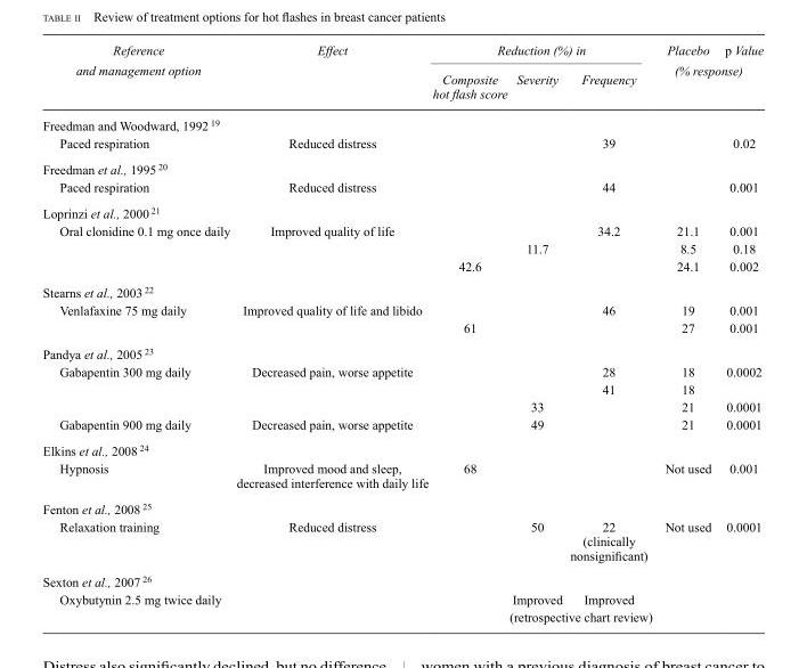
<table><thead><tr><td rowspan="2">Reference and management option</td><td rowspan="2">Effect</td><td colspan="3">Reduction (%) in</td><td>Placebo</td><td>p Value</td></tr><tr><td>Composite hot flash score</td><td>Severity</td><td>Frequency</td><td colspan="2">(% response)</td></tr></thead><tbody><tr><td colspan="7">Freedman and Woodward, 1992 <sup>19</sup></td></tr><tr><td>Paced respiration</td><td>Reduced distress</td><td></td><td></td><td>39</td><td></td><td>0.02</td></tr><tr><td colspan="7">Freedman et al., 1995 <sup>20</sup></td></tr><tr><td>Paced respiration</td><td>Reduced distress</td><td></td><td></td><td>44</td><td></td><td>0.001</td></tr><tr><td colspan="7">Loprinzi et al., 2000 <sup>21</sup></td></tr><tr><td rowspan="3">Oral clonidine 0.1 mg once daily</td><td>Improved quality of life</td><td></td><td></td><td>34.2</td><td>21.1</td><td>0.001</td></tr><tr><td></td><td></td><td>11.7</td><td></td><td>8.5</td><td>0.18</td></tr><tr><td></td><td>42.6</td><td></td><td></td><td>24.1</td><td>0.002</td></tr><tr><td colspan="7">Stearns et al., 2003 <sup>22</sup></td></tr><tr><td rowspan="2">Venlafaxine 75 mg daily</td><td>Improved quality of life and libido</td><td></td><td></td><td>46</td><td>19</td><td>0.001</td></tr><tr><td></td><td>61</td><td></td><td></td><td>27</td><td>0.001</td></tr><tr><td colspan="7">Pandya et al., 2005 <sup>23</sup></td></tr><tr><td rowspan="3">Gabapentin 300 mg daily</td><td>Decreased pain, worse appetite</td><td></td><td></td><td>28</td><td>18</td><td>0.0002</td></tr><tr><td></td><td></td><td></td><td>41</td><td>18</td><td></td></tr><tr><td></td><td></td><td>33</td><td></td><td>21</td><td>0.0001</td></tr><tr><td>Gabapentin 900 mg daily</td><td>Decreased pain, worse appetite</td><td></td><td>49</td><td></td><td>21</td><td>0.0001</td></tr><tr><td colspan="7">Elkins et al., 2008 <sup>24</sup></td></tr><tr><td>Hypnosis</td><td>Improved mood and sleep, decreased interference with daily life</td><td>68</td><td></td><td></td><td>Not used</td><td>0.001</td></tr><tr><td colspan="7">Fenton et al., 2008 <sup>25</sup></td></tr><tr><td>Relaxation training</td><td>Reduced distress</td><td></td><td>50</td><td>22 (clinically nonsignificant)</td><td>Not used</td><td>0.0001</td></tr><tr><td colspan="7">Sexton et al., 2007 <sup>26</sup></td></tr><tr><td rowspan="2">Oxybutynin 2.5 mg twice daily</td><td></td><td></td><td>Improved</td><td>Improved</td><td></td><td></td></tr><tr><td></td><td></td><td colspan="2">(retrospective chart review)</td><td></td><td></td></tr></tbody></table>